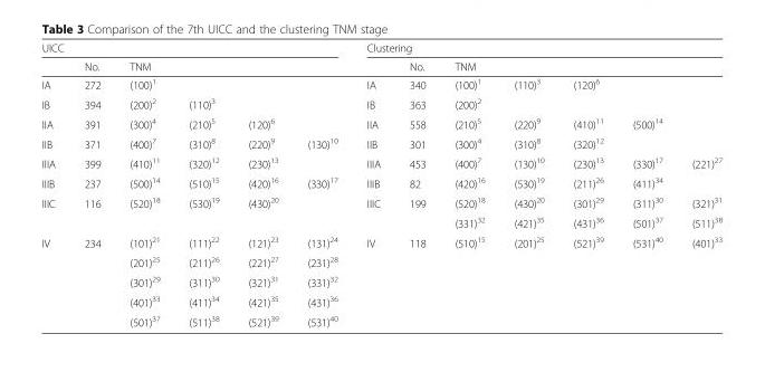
<table><thead><tr><td colspan="6">UICC</td><td colspan="7">Clustering</td></tr><tr><td rowspan="2">IA</td><td rowspan="2">No. 272</td><td colspan="4">TNM</td><td rowspan="2">IA</td><td rowspan="2">No. 340</td><td colspan="5">TNM</td></tr><tr><td>(100)<sup>1</sup></td><td></td><td></td><td></td><td>(100)<sup>1</sup></td><td>(110)<sup>3</sup></td><td>(120)<sup>6</sup></td><td></td><td></td></tr></thead><tbody><tr><td>IB</td><td>394</td><td>(200)<sup>2</sup></td><td>(110)<sup>3</sup></td><td></td><td></td><td>IB</td><td>363</td><td>(200)<sup>2</sup></td><td></td><td></td><td></td><td></td></tr><tr><td>IIA</td><td>391</td><td>(300)<sup>4</sup></td><td>(210)<sup>5</sup></td><td>(120)<sup>6</sup></td><td></td><td>IIA</td><td>558</td><td>(210)<sup>5</sup></td><td>(220)<sup>9</sup></td><td>(410)<sup>11</sup></td><td>(500)<sup>14</sup></td><td></td></tr><tr><td>IIB</td><td>371</td><td>(400)<sup>7</sup></td><td>(310)<sup>8</sup></td><td>(220)<sup>9</sup></td><td>(130)<sup>10</sup></td><td>IIB</td><td>301</td><td>(300)<sup>4</sup></td><td>(310)<sup>8</sup></td><td>(320)<sup>12</sup></td><td></td><td></td></tr><tr><td>IIIA</td><td>399</td><td>(410)<sup>11</sup></td><td>(320)<sup>12</sup></td><td>(230)<sup>13</sup></td><td></td><td>IIIA</td><td>453</td><td>(400)<sup>7</sup></td><td>(130)<sup>10</sup></td><td>(230)<sup>13</sup></td><td>(330)<sup>17</sup></td><td>(221)<sup>27</sup></td></tr><tr><td>IIIB</td><td>237</td><td>(500)<sup>14</sup></td><td>(510)<sup>15</sup></td><td>(420)<sup>16</sup></td><td>(330)<sup>17</sup></td><td>IIIB</td><td>82</td><td>(420)<sup>16</sup></td><td>(530)<sup>19</sup></td><td>(211)<sup>26</sup></td><td>(411)<sup>34</sup></td><td></td></tr><tr><td rowspan="2">IIIC</td><td>116</td><td>(520)<sup>18</sup></td><td>(530)<sup>19</sup></td><td>(430)<sup>20</sup></td><td></td><td>IIIC</td><td>199</td><td>(520)<sup>18</sup></td><td>(430)<sup>20</sup></td><td>(301)<sup>29</sup></td><td>(311)<sup>30</sup></td><td>(321)<sup>31</sup></td></tr><tr><td></td><td></td><td></td><td></td><td></td><td></td><td></td><td>(331)<sup>32</sup></td><td>(421)<sup>35</sup></td><td>(431)<sup>36</sup></td><td>(501)<sup>37</sup></td><td>(511)<sup>38</sup></td></tr><tr><td rowspan="5">IV</td><td rowspan="5">234</td><td>(101)<sup>21</sup></td><td>(111)<sup>22</sup></td><td>(121)<sup>23</sup></td><td>(131)<sup>24</sup></td><td rowspan="5">IV</td><td rowspan="5">118</td><td rowspan="5">(510)<sup>15</sup></td><td rowspan="5">(201)<sup>25</sup></td><td rowspan="5">(521)<sup>39</sup></td><td rowspan="5">(531)<sup>40</sup></td><td rowspan="5">(401)<sup>33</sup></td></tr><tr><td>(201)<sup>25</sup></td><td>(211)<sup>26</sup></td><td>(221)<sup>27</sup></td><td>(231)<sup>28</sup></td></tr><tr><td>(301)<sup>29</sup></td><td>(311)<sup>30</sup></td><td>(321)<sup>31</sup></td><td>(331)<sup>32</sup></td></tr><tr><td>(401)<sup>33</sup></td><td>(411)<sup>34</sup></td><td>(421)<sup>35</sup></td><td>(431)<sup>36</sup></td></tr><tr><td>(501)<sup>37</sup></td><td>(511)<sup>38</sup></td><td>(521)<sup>39</sup></td><td>(531)<sup>40</sup></td></tr></tbody></table>